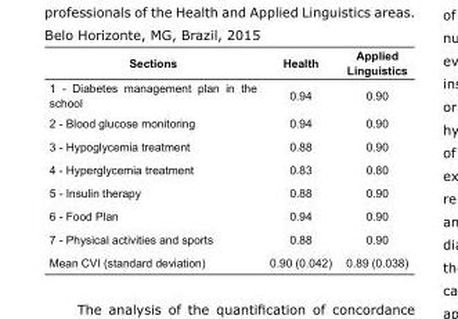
<table><tbody><tr><td>Sections</td><td>Health</td><td>Applied Linguistics</td></tr><tr><td>1 - Diabetes management plan in the school</td><td>0.94</td><td>0.90</td></tr><tr><td>2 - Blood glucose monitoring</td><td>0.94</td><td>0.90</td></tr><tr><td>3 - Hypoglycemia treatment</td><td>0.88</td><td>0.90</td></tr><tr><td>4 - Hyperglycemia treatment</td><td>0.83</td><td>0.80</td></tr><tr><td>5 - Insulin therapy</td><td>0.88</td><td>0.90</td></tr><tr><td>6 - Food Plan</td><td>0.94</td><td>0.90</td></tr><tr><td>7 - Physical activities and sports</td><td>0.88</td><td>0.90</td></tr><tr><td>Mean CVI (standard deviation)</td><td>0.90 (0.042)</td><td>0.89 (0.038)</td></tr></tbody></table>